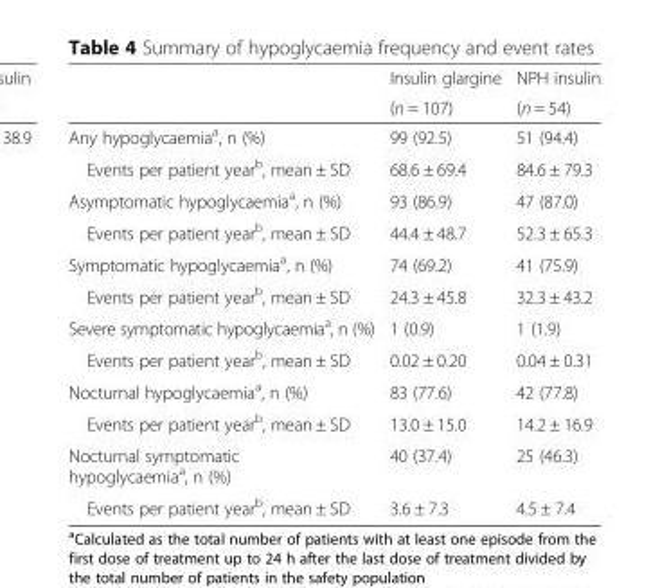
<table><thead><tr><td rowspan="2"></td><td rowspan="2">Insulin glargine (n = 107)</td><td rowspan="2">NPH insulin (n = 54)</td></tr><tr></tr></thead><tbody><tr><td>Any hypoglycaemia<sup>a</sup>, n (%)</td><td>99 (92.5)</td><td>51 (94.4)</td></tr><tr><td>Events per patient year<sup>b</sup>, mean ± SD</td><td>68.6 ± 69.4</td><td>84.6 ± 79.3</td></tr><tr><td>Asymptomatic hypoglycaemia<sup>a</sup>, n (%)</td><td>93 (86.9)</td><td>47 (87.0)</td></tr><tr><td>Events per patient year<sup>b</sup>, mean ± SD</td><td>44.4 ± 48.7</td><td>52.3 ± 65.3</td></tr><tr><td>Symptomatic hypoglycaemia<sup>a</sup>, n (%)</td><td>74 (69.2)</td><td>41 (75.9)</td></tr><tr><td>Events per patient year<sup>b</sup>, mean ± SD</td><td>24.3 ± 45.8</td><td>32.3 ± 43.2</td></tr><tr><td>Severe symptomatic hypoglycaemia<sup>a</sup>, n (%)</td><td>1 (0.9)</td><td>1 (1.9)</td></tr><tr><td>Events per patient year<sup>b</sup>, mean ± SD</td><td>0.02 ± 0.20</td><td>0.04 ± 0.31</td></tr><tr><td>Nocturnal hypoglycaemia<sup>a</sup>, n (%)</td><td>83 (77.6)</td><td>42 (77.8)</td></tr><tr><td>Events per patient year<sup>b</sup>, mean ± SD</td><td>13.0 ± 15.0</td><td>14.2 ± 16.9</td></tr><tr><td>Nocturnal symptomatic hypoglycaemia<sup>a</sup>, n (%)</td><td>40 (37.4)</td><td>25 (46.3)</td></tr><tr><td>Events per patient year<sup>b</sup>, mean ± SD</td><td>3.6 ± 7.3</td><td>4.5 ± 7.4</td></tr></tbody></table>